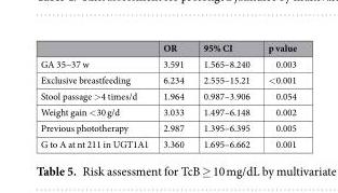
<table><thead><tr><td></td><td>OR</td><td>95% CI</td><td>p value</td></tr></thead><tbody><tr><td>GA 35~37 w</td><td>3.591</td><td>1.565–8.240</td><td>0.003</td></tr><tr><td>Exclusive breastfeeding</td><td>6.234</td><td>2.555–15.21</td><td>&lt;0.001</td></tr><tr><td>Stool passage &gt;4 times/d</td><td>1.964</td><td>0.987–3.906</td><td>0.054</td></tr><tr><td>Weight gain &lt;30 g/d</td><td>3.033</td><td>1.497–6.148</td><td>0.002</td></tr><tr><td>Previous phototherapy</td><td>2.987</td><td>1.395–6.395</td><td>0.005</td></tr><tr><td>G to A at nt 211 in UGT1A1</td><td>3.360</td><td>1.695–6.662</td><td>0.001</td></tr></tbody></table>